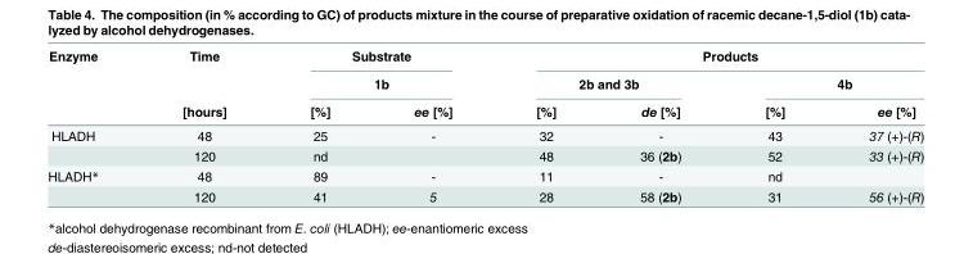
<table><thead><tr><td rowspan="3">Enzyme</td><td rowspan="3">Time [hours]</td><td rowspan="2" colspan="2">Substrate 1b</td><td colspan="4">Products</td></tr><tr><td colspan="2">2b and 3b</td><td colspan="2">4b</td></tr><tr><td>[%]</td><td>ee [%]</td><td>[%]</td><td>de [%]</td><td>[%]</td><td>ee [%]</td></tr></thead><tbody><tr><td rowspan="2">HLADH</td><td>48</td><td>25</td><td>-</td><td>32</td><td>-</td><td>43</td><td>37 (+)-(R)</td></tr><tr><td>120</td><td>nd</td><td></td><td>48</td><td>36 (2b)</td><td>52</td><td>33 (+)-(R)</td></tr><tr><td rowspan="2">HLADH*</td><td>48</td><td>89</td><td>-</td><td>11</td><td>-</td><td>nd</td><td></td></tr><tr><td>120</td><td>41</td><td>5</td><td>28</td><td>58 (2b)</td><td>31</td><td>56 (+)-(R)</td></tr></tbody></table>